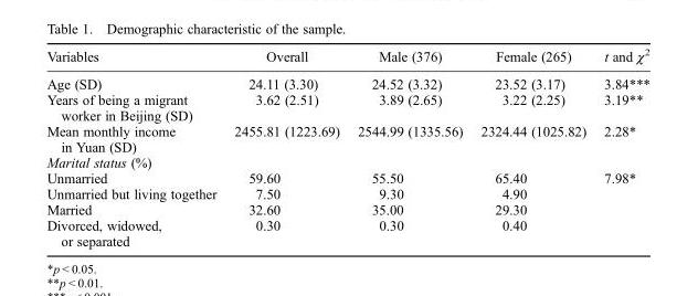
<table><thead><tr><td>Variables</td><td>Overall</td><td>Male (376)</td><td>Female (265)</td><td>t and χ<sup>2</sup></td></tr></thead><tbody><tr><td>Age (SD)</td><td>24.11 (3.30)</td><td>24.52 (3.32)</td><td>23.52 (3.17)</td><td>3.84***</td></tr><tr><td>Years of being a migrant worker in Beijing (SD)</td><td>3.62 (2.51)</td><td>3.89 (2.65)</td><td>3.22 (2.25)</td><td>3.19**</td></tr><tr><td>Mean monthly income in Yuan (SD)</td><td>2455.81 (1223.69)</td><td>2544.99 (1335.56)</td><td>2324.44 (1025.82)</td><td>2.28*</td></tr><tr><td colspan="5">Marital status (%)</td></tr><tr><td>Unmarried</td><td>59.60</td><td>55.50</td><td>65.40</td><td>7.98*</td></tr><tr><td>Unmarried but living together</td><td>7.50</td><td>9.30</td><td>4.90</td><td></td></tr><tr><td>Married</td><td>32.60</td><td>35.00</td><td>29.30</td><td></td></tr><tr><td>Divorced, widowed, or separated</td><td>0.30</td><td>0.30</td><td>0.40</td><td></td></tr></tbody></table>